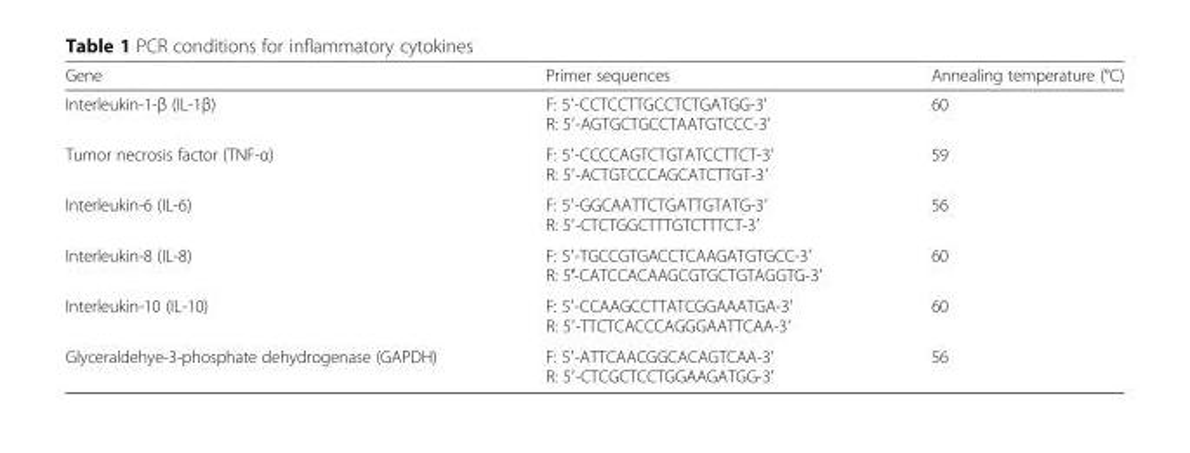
<table><thead><tr><td>Gene</td><td>Primer sequences</td><td>Annealing temperature (°C)</td></tr></thead><tbody><tr><td>Interleukin-1-β (IL-1β)</td><td>F: 5′-CCTCCTTGCCTCTGATGG-3′ R: 5′-AGTGCTGCCTAATGTCCC-3′</td><td>60</td></tr><tr><td>Tumor necrosis factor (TNF-α)</td><td>F: 5′-CCCCAGTCTGTATCCTTCT-3′ R: 5′-ACTGTCCCAGCATCTTGT-3′</td><td>59</td></tr><tr><td>Interleukin-6 (IL-6)</td><td>F: 5′-GGCAATTCTGATTGTATG-3′ R: 5′-CTCTGGCTTTGTCTTTCT-3′</td><td>56</td></tr><tr><td>Interleukin-8 (IL-8)</td><td>F: 5′-TGCCGTGACCTCAAGATGTGCC-3′ R: 5′-CATCCACAAGCGTGCTGTAGGTG-3′</td><td>60</td></tr><tr><td>Interleukin-10 (IL-10)</td><td>F: 5′-CCAAGCCTTATCGGAAATGA-3′ R: 5′-TTCTCACCCAGGGAATTCAA-3′</td><td>60</td></tr><tr><td>Glyceraldehye-3-phosphate dehydrogenase (GAPDH)</td><td>F: 5′-ATTCAACGGCACAGTCAA-3′ R: 5′-CTCGCTCCTGGAAGATGG-3′</td><td>56</td></tr></tbody></table>